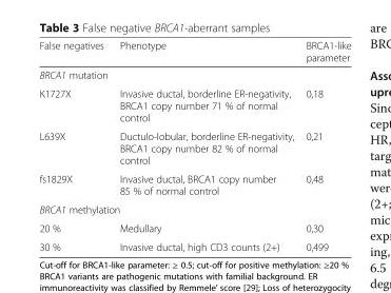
<table><thead><tr><td>False negatives</td><td>Phenotype</td><td>BRCA1-like parameter</td></tr></thead><tbody><tr><td colspan="3">BRCA1 mutation</td></tr><tr><td>K1727X</td><td>Invasive ductal, borderline ER-negativity, BRCA1 copy number 71 % of normal control</td><td>0,18</td></tr><tr><td>L639X</td><td>Ductulo-lobular, borderline ER-negativity, BRCA1 copy number 82 % of normal control</td><td>0,21</td></tr><tr><td>fs1829X</td><td>Invasive ductal, BRCA1 copy number 85 % of normal control</td><td>0,48</td></tr><tr><td colspan="3">BRCA1 methylation</td></tr><tr><td>20 %</td><td>Medullary</td><td>0,30</td></tr><tr><td>30 %</td><td>Invasive ductal, high CD3 counts (2+)</td><td>0,499</td></tr></tbody></table>